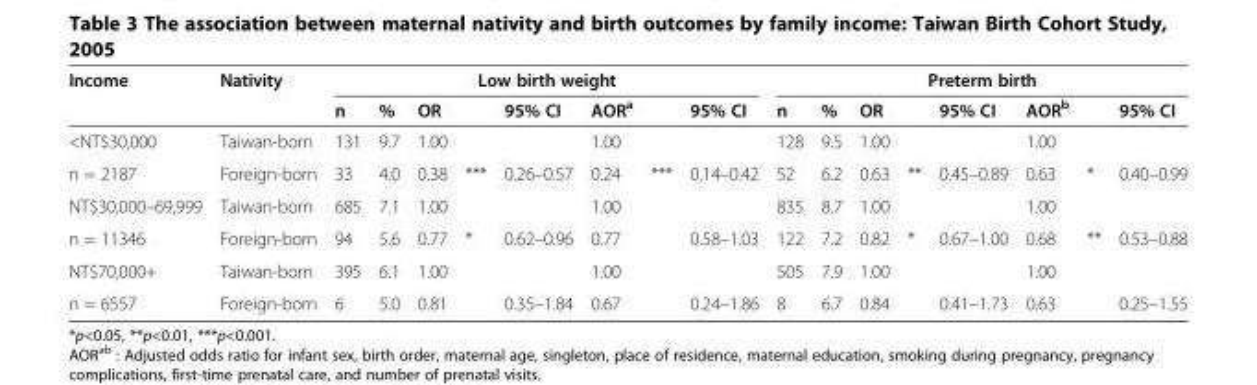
<table><thead><tr><td rowspan="2">Income</td><td rowspan="2">Nativity</td><td colspan="8">Low birth weight</td><td colspan="8">Preterm birth</td></tr><tr><td>n</td><td>%</td><td>OR</td><td></td><td>95% CI</td><td>AOR<sup>a</sup></td><td></td><td>95% CI</td><td>n</td><td>%</td><td>OR</td><td></td><td>95% CI</td><td>AOR<sup>b</sup></td><td></td><td>95% CI</td></tr></thead><tbody><tr><td>&lt;NT$30,000</td><td>Taiwan-born</td><td>131</td><td>9.7</td><td>1.00</td><td></td><td></td><td>1.00</td><td></td><td></td><td>128</td><td>9.5</td><td>1.00</td><td></td><td></td><td>1.00</td><td></td><td></td></tr><tr><td>n = 2187</td><td>Foreign-born</td><td>33</td><td>4.0</td><td>0.38</td><td>***</td><td>0.26–0.57</td><td>0.24</td><td>***</td><td>0.14–0.42</td><td>52</td><td>6.2</td><td>0.63</td><td>**</td><td>0.45–0.89</td><td>0.63</td><td>*</td><td>0.40–0.99</td></tr><tr><td>NT$30,000–69,999</td><td>Taiwan-born</td><td>685</td><td>7.1</td><td>1.00</td><td></td><td></td><td>1.00</td><td></td><td></td><td>835</td><td>8.7</td><td>1.00</td><td></td><td></td><td>1.00</td><td></td><td></td></tr><tr><td>n = 11346</td><td>Foreign-born</td><td>94</td><td>5.6</td><td>0.77</td><td>*</td><td>0.62–0.96</td><td>0.77</td><td></td><td>0.58–1.03</td><td>122</td><td>7.2</td><td>0.82</td><td>*</td><td>0.67–1.00</td><td>0.68</td><td>**</td><td>0.53–0.88</td></tr><tr><td>NT$70,000+</td><td>Taiwan-born</td><td>395</td><td>6.1</td><td>1.00</td><td></td><td></td><td>1.00</td><td></td><td></td><td>505</td><td>7.9</td><td>1.00</td><td></td><td></td><td>1.00</td><td></td><td></td></tr><tr><td>n = 6557</td><td>Foreign-born</td><td>6</td><td>5.0</td><td>0.81</td><td></td><td>0.35–1.84</td><td>0.67</td><td></td><td>0.24–1.86</td><td>8</td><td>6.7</td><td>0.84</td><td></td><td>0.41–1.73</td><td>0.63</td><td></td><td>0.25–1.55</td></tr></tbody></table>